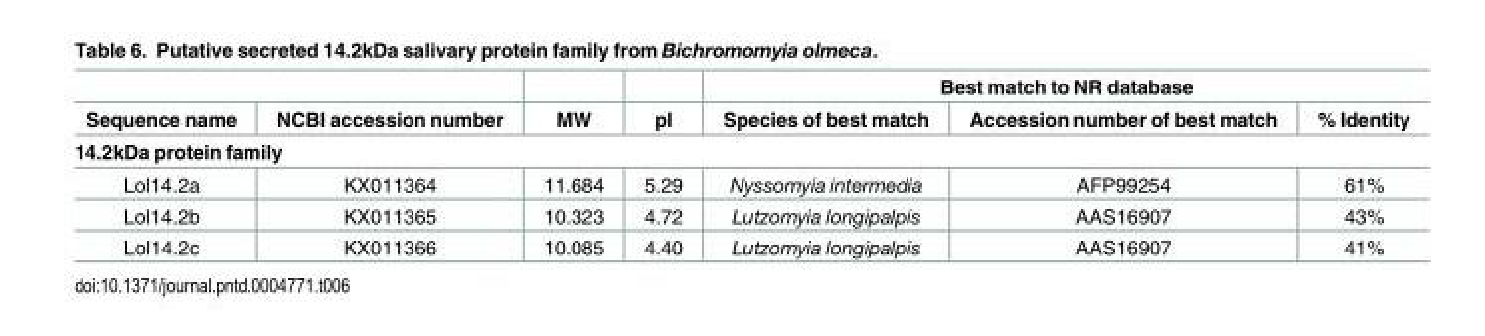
<table><thead><tr><td rowspan="2">Sequence name</td><td rowspan="2">NCBI accession number</td><td rowspan="2">MW</td><td rowspan="2">pI</td><td colspan="3">Best match to NR database</td></tr><tr><td>Species of best match</td><td>Accession number of best match</td><td>% Identity</td></tr><tr><td colspan="7">14.2kDa protein family</td></tr></thead><tbody><tr><td>Lol14.2a</td><td>KX011364</td><td>11.684</td><td>5.29</td><td>Nyssomyia intermedia</td><td>AFP99254</td><td>61%</td></tr><tr><td>Lol14.2b</td><td>KX011365</td><td>10.323</td><td>4.72</td><td>Lutzomyia longipalpis</td><td>AAS16907</td><td>43%</td></tr><tr><td>Lol14.2c</td><td>KX011366</td><td>10.085</td><td>4.40</td><td>Lutzomyia longipalpis</td><td>AAS16907</td><td>41%</td></tr></tbody></table>